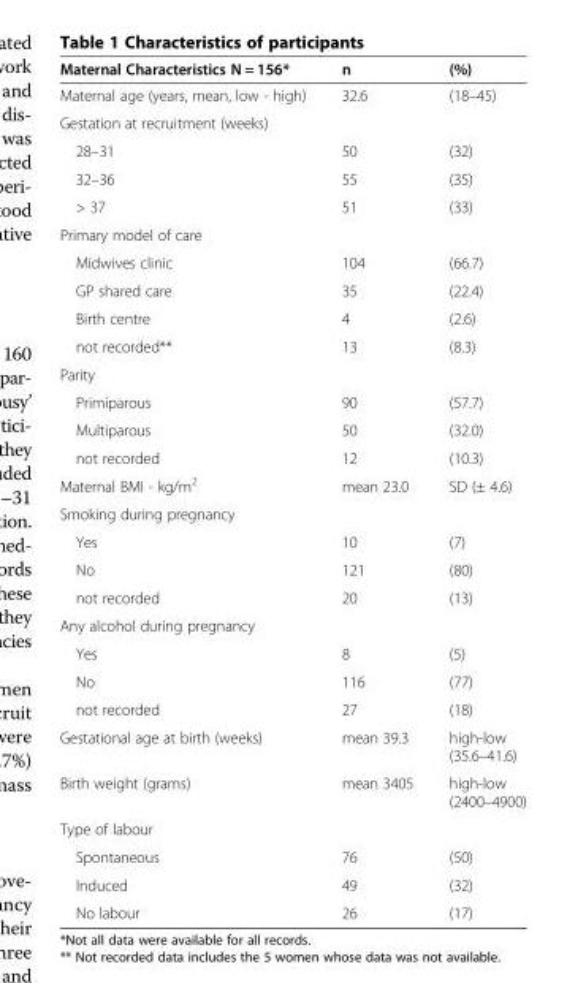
<table><thead><tr><td>Maternal Characteristics N = 156*</td><td>n</td><td>(%)</td></tr></thead><tbody><tr><td>Maternal age (years, mean, low - high)</td><td>32.6</td><td>(18–45)</td></tr><tr><td colspan="3">Gestation at recruitment (weeks)</td></tr><tr><td>28–31</td><td>50</td><td>(32)</td></tr><tr><td>32–36</td><td>55</td><td>(35)</td></tr><tr><td>&gt; 37</td><td>51</td><td>(33)</td></tr><tr><td colspan="3">Primary model of care</td></tr><tr><td>Midwives clinic</td><td>104</td><td>(66.7)</td></tr><tr><td>GP shared care</td><td>35</td><td>(22.4)</td></tr><tr><td>Birth centre</td><td>4</td><td>(2.6)</td></tr><tr><td>not recorded**</td><td>13</td><td>(8.3)</td></tr><tr><td colspan="3">Parity</td></tr><tr><td>Primiparous</td><td>90</td><td>(57.7)</td></tr><tr><td>Multiparous</td><td>50</td><td>(32.0)</td></tr><tr><td>not recorded</td><td>12</td><td>(10.3)</td></tr><tr><td>Maternal BMI - kg/m<sup>2</sup></td><td>mean 23.0</td><td>SD (± 4.6)</td></tr><tr><td colspan="3">Smoking during pregnancy</td></tr><tr><td>Yes</td><td>10</td><td>(7)</td></tr><tr><td>No</td><td>121</td><td>(80)</td></tr><tr><td>not recorded</td><td>20</td><td>(13)</td></tr><tr><td colspan="3">Any alcohol during pregnancy</td></tr><tr><td>Yes</td><td>8</td><td>(5)</td></tr><tr><td>No</td><td>116</td><td>(77)</td></tr><tr><td>not recorded</td><td>27</td><td>(18)</td></tr><tr><td>Gestational age at birth (weeks)</td><td>mean 39.3</td><td>high-low (35.6–41.6)</td></tr><tr><td>Birth weight (grams)</td><td>mean 3405</td><td>high-low (2400–4900)</td></tr><tr><td colspan="3">Type of labour</td></tr><tr><td>Spontaneous</td><td>76</td><td>(50)</td></tr><tr><td>Induced</td><td>49</td><td>(32)</td></tr><tr><td>No labour</td><td>26</td><td>(17)</td></tr></tbody></table>